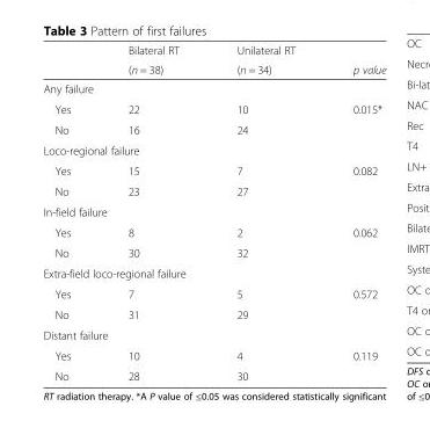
<table><thead><tr><td rowspan="2"></td><td rowspan="2">Bilateral RT (n = 38)</td><td rowspan="2">Unilateral RT (n = 34)</td><td rowspan="2">p value</td></tr><tr></tr></thead><tbody><tr><td colspan="4">Any failure</td></tr><tr><td>Yes</td><td>22</td><td>10</td><td rowspan="2">0.015*</td></tr><tr><td>No</td><td>16</td><td>24</td></tr><tr><td colspan="4">Loco-regional failure</td></tr><tr><td>Yes</td><td>15</td><td>7</td><td rowspan="2">0.082</td></tr><tr><td>No</td><td>23</td><td>27</td></tr><tr><td colspan="4">In-field failure</td></tr><tr><td>Yes</td><td>8</td><td>2</td><td rowspan="2">0.062</td></tr><tr><td>No</td><td>30</td><td>32</td></tr><tr><td colspan="4">Extra-field loco-regional failure</td></tr><tr><td>Yes</td><td>7</td><td>5</td><td rowspan="2">0.572</td></tr><tr><td>No</td><td>31</td><td>29</td></tr><tr><td colspan="4">Distant failure</td></tr><tr><td>Yes</td><td>10</td><td>4</td><td rowspan="2">0.119</td></tr><tr><td>No</td><td>28</td><td>30</td></tr></tbody></table>